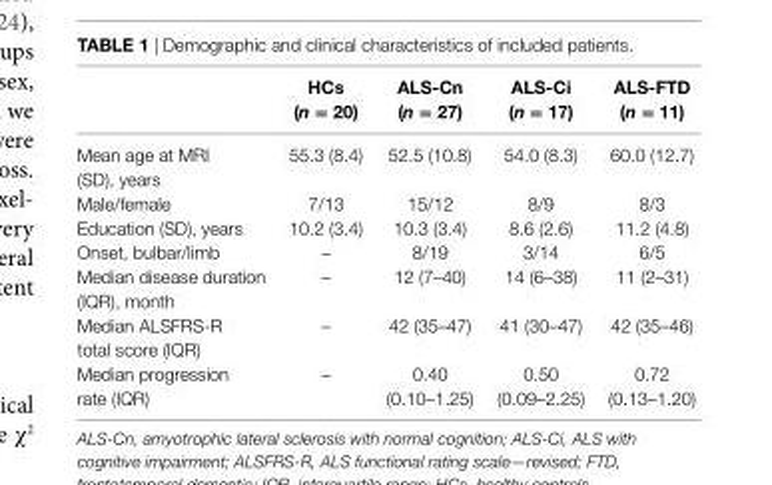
<table><thead><tr><td></td><td>hcs (n = 20)</td><td>als-cn (n = 27)</td><td>als-ci (n = 17)</td><td>als-FTD (n = 11)</td></tr></thead><tbody><tr><td>Mean age at MRI (SD), years</td><td>55.3 (8.4)</td><td>52.5 (10.8)</td><td>54.0 (8.3)</td><td>60.0 (12.7)</td></tr><tr><td>Male/female</td><td>7/13</td><td>15/12</td><td>8/9</td><td>8/3</td></tr><tr><td>Education (SD), years</td><td>10.2 (3.4)</td><td>10.3 (3.4)</td><td>8.6 (2.6)</td><td>11.2 (4.8)</td></tr><tr><td>Onset, bulbar/limb</td><td>–</td><td>8/19</td><td>3/14</td><td>6/5</td></tr><tr><td>Median disease duration (IQR), month</td><td>–</td><td>12 (7–40)</td><td>14 (6–38)</td><td>11 (2–31)</td></tr><tr><td>Median ALSFRS-R total score (IQR)</td><td>–</td><td>42 (35–47)</td><td>41 (30–47)</td><td>42 (35–46)</td></tr><tr><td>Median progression rate (IQR)</td><td>–</td><td>0.40 (0.10–1.25)</td><td>0.50 (0.09–2.25)</td><td>0.72 (0.13–1.20)</td></tr></tbody></table>